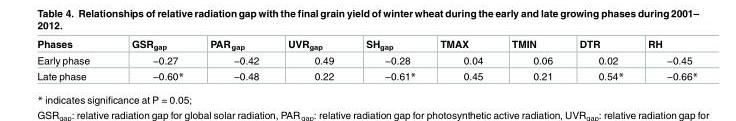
<table><thead><tr><td>Phases</td><td>GSR<sub>gap</sub></td><td>PAR<sub>gap</sub></td><td>UVR<sub>gap</sub></td><td>SH<sub>gap</sub></td><td>TMAX</td><td>TMIN</td><td>DTR</td><td>RH</td></tr></thead><tbody><tr><td>Early phase</td><td>−0.27</td><td>−0.42</td><td>0.49</td><td>−0.28</td><td>0.04</td><td>0.06</td><td>0.02</td><td>−0.45</td></tr><tr><td>Late phase</td><td>−0.60*</td><td>−0.48</td><td>0.22</td><td>−0.61*</td><td>0.45</td><td>0.21</td><td>0.54*</td><td>−0.66*</td></tr></tbody></table>